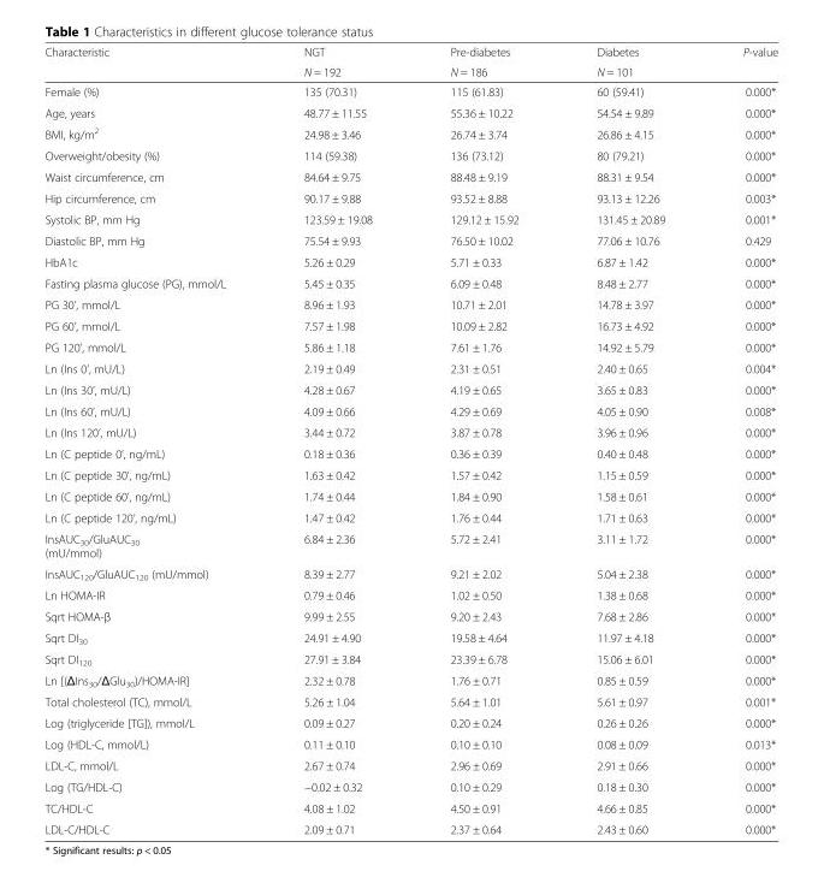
<table><thead><tr><td rowspan="2">Characteristic</td><td rowspan="2">NGT N = 192</td><td rowspan="2">Pre-diabetes N = 186</td><td rowspan="2">Diabetes N = 101</td><td rowspan="2">P-value</td></tr><tr></tr></thead><tbody><tr><td>Female (%)</td><td>135 (70.31)</td><td>115 (61.83)</td><td>60 (59.41)</td><td>0.000*</td></tr><tr><td>Age, years</td><td>48.77 ± 11.55</td><td>55.36 ± 10.22</td><td>54.54 ± 9.89</td><td>0.000*</td></tr><tr><td>BMI, kg/m<sup>2</sup></td><td>24.98 ± 3.46</td><td>26.74 ± 3.74</td><td>26.86 ± 4.15</td><td>0.000*</td></tr><tr><td>Overweight/obesity (%)</td><td>114 (59.38)</td><td>136 (73.12)</td><td>80 (79.21)</td><td>0.000*</td></tr><tr><td>Waist circumference, cm</td><td>84.64 ± 9.75</td><td>88.48 ± 9.19</td><td>88.31 ± 9.54</td><td>0.000*</td></tr><tr><td>Hip circumference, cm</td><td>90.17 ± 9.88</td><td>93.52 ± 8.88</td><td>93.13 ± 12.26</td><td>0.003*</td></tr><tr><td>Systolic BP, mm Hg</td><td>123.59 ± 19.08</td><td>129.12 ± 15.92</td><td>131.45 ± 20.89</td><td>0.001*</td></tr><tr><td>Diastolic BP, mm Hg</td><td>75.54 ± 9.93</td><td>76.50 ± 10.02</td><td>77.06 ± 10.76</td><td>0.429</td></tr><tr><td>HbA1c</td><td>5.26 ± 0.29</td><td>5.71 ± 0.33</td><td>6.87 ± 1.42</td><td>0.000*</td></tr><tr><td>Fasting plasma glucose (PG), mmol/L</td><td>5.45 ± 0.35</td><td>6.09 ± 0.48</td><td>8.48 ± 2.77</td><td>0.000*</td></tr><tr><td>PG 30’, mmol/L</td><td>8.96 ± 1.93</td><td>10.71 ± 2.01</td><td>14.78 ± 3.97</td><td>0.000*</td></tr><tr><td>PG 60’, mmol/L</td><td>7.57 ± 1.98</td><td>10.09 ± 2.82</td><td>16.73 ± 4.92</td><td>0.000*</td></tr><tr><td>PG 120’, mmol/L</td><td>5.86 ± 1.18</td><td>7.61 ± 1.76</td><td>14.92 ± 5.79</td><td>0.000*</td></tr><tr><td>Ln (Ins 0’, mU/L)</td><td>2.19 ± 0.49</td><td>2.31 ± 0.51</td><td>2.40 ± 0.65</td><td>0.004*</td></tr><tr><td>Ln (Ins 30’, mU/L)</td><td>4.28 ± 0.67</td><td>4.19 ± 0.65</td><td>3.65 ± 0.83</td><td>0.000*</td></tr><tr><td>Ln (Ins 60’, mU/L)</td><td>4.09 ± 0.66</td><td>4.29 ± 0.69</td><td>4.05 ± 0.90</td><td>0.008*</td></tr><tr><td>Ln (Ins 120’, mU/L)</td><td>3.44 ± 0.72</td><td>3.87 ± 0.78</td><td>3.96 ± 0.96</td><td>0.000*</td></tr><tr><td>Ln (C peptide 0’, ng/mL)</td><td>0.18 ± 0.36</td><td>0.36 ± 0.39</td><td>0.40 ± 0.48</td><td>0.000*</td></tr><tr><td>Ln (C peptide 30’, ng/mL)</td><td>1.63 ± 0.42</td><td>1.57 ± 0.42</td><td>1.15 ± 0.59</td><td>0.000*</td></tr><tr><td>Ln (C peptide 60’, ng/mL)</td><td>1.74 ± 0.44</td><td>1.84 ± 0.90</td><td>1.58 ± 0.61</td><td>0.000*</td></tr><tr><td>Ln (C peptide 120’, ng/mL)</td><td>1.47 ± 0.42</td><td>1.76 ± 0.44</td><td>1.71 ± 0.63</td><td>0.000*</td></tr><tr><td>InsAUC<sub>30</sub>/GluAUC<sub>30</sub> (mU/mmol)</td><td>6.84 ± 2.36</td><td>5.72 ± 2.41</td><td>3.11 ± 1.72</td><td>0.000*</td></tr><tr><td>InsAUC<sub>120</sub>/GluAUC<sub>120</sub> (mU/mmol)</td><td>8.39 ± 2.77</td><td>9.21 ± 2.02</td><td>5.04 ± 2.38</td><td>0.000*</td></tr><tr><td>Ln HOMA-IR</td><td>0.79 ± 0.46</td><td>1.02 ± 0.50</td><td>1.38 ± 0.68</td><td>0.000*</td></tr><tr><td>Sqrt HOMA-β</td><td>9.99 ± 2.55</td><td>9.20 ± 2.43</td><td>7.68 ± 2.86</td><td>0.000*</td></tr><tr><td>Sqrt DI<sub>30</sub></td><td>24.91 ± 4.90</td><td>19.58 ± 4.64</td><td>11.97 ± 4.18</td><td>0.000*</td></tr><tr><td>Sqrt DI<sub>120</sub></td><td>27.91 ± 3.84</td><td>23.39 ± 6.78</td><td>15.06 ± 6.01</td><td>0.000*</td></tr><tr><td>Ln [(ΔIns<sub>30</sub>/ΔGlu<sub>30</sub>)/HOMA-IR]</td><td>2.32 ± 0.78</td><td>1.76 ± 0.71</td><td>0.85 ± 0.59</td><td>0.000*</td></tr><tr><td>Total cholesterol (TC), mmol/L</td><td>5.26 ± 1.04</td><td>5.64 ± 1.01</td><td>5.61 ± 0.97</td><td>0.001*</td></tr><tr><td>Log (triglyceride [TG]), mmol/L</td><td>0.09 ± 0.27</td><td>0.20 ± 0.24</td><td>0.26 ± 0.26</td><td>0.000*</td></tr><tr><td>Log (HDL-C, mmol/L)</td><td>0.11 ± 0.10</td><td>0.10 ± 0.10</td><td>0.08 ± 0.09</td><td>0.013*</td></tr><tr><td>LDL-C, mmol/L</td><td>2.67 ± 0.74</td><td>2.96 ± 0.69</td><td>2.91 ± 0.66</td><td>0.000*</td></tr><tr><td>Log (TG/HDL-C)</td><td>−0.02 ± 0.32</td><td>0.10 ± 0.29</td><td>0.18 ± 0.30</td><td>0.000*</td></tr><tr><td>TC/HDL-C</td><td>4.08 ± 1.02</td><td>4.50 ± 0.91</td><td>4.66 ± 0.85</td><td>0.000*</td></tr><tr><td>LDL-C/HDL-C</td><td>2.09 ± 0.71</td><td>2.37 ± 0.64</td><td>2.43 ± 0.60</td><td>0.000*</td></tr></tbody></table>